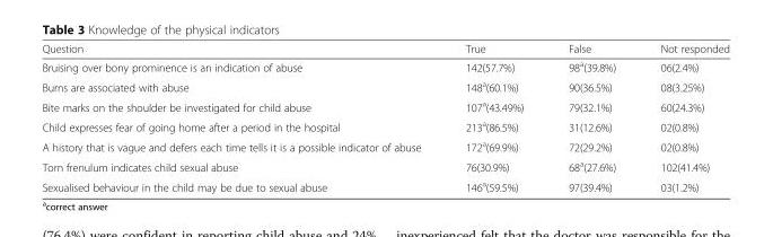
<table><thead><tr><td>Question</td><td>True</td><td>False</td><td>Not responded</td></tr></thead><tbody><tr><td>Bruising over bony prominence is an indication of abuse</td><td>142(57.7%)</td><td>98<sup>a</sup>(39.8%)</td><td>06(2.4%)</td></tr><tr><td>Burns are associated with abuse</td><td>148<sup>a</sup>(60.1%)</td><td>90(36.5%)</td><td>08(3.25%)</td></tr><tr><td>Bite marks on the shoulder be investigated for child abuse</td><td>107<sup>a</sup>(43.49%)</td><td>79(32.1%)</td><td>60(24.3%)</td></tr><tr><td>Child expresses fear of going home after a period in the hospital</td><td>213<sup>a</sup>(86.5%)</td><td>31(12.6%)</td><td>02(0.8%)</td></tr><tr><td>A history that is vague and defers each time tells it is a possible indicator of abuse</td><td>172<sup>a</sup>(69.9%)</td><td>72(29.2%)</td><td>02(0.8%)</td></tr><tr><td>Torn frenulum indicates child sexual abuse</td><td>76(30.9%)</td><td>68<sup>a</sup>(27.6%)</td><td>102(41.4%)</td></tr><tr><td>Sexualised behaviour in the child may be due to sexual abuse</td><td>146<sup>a</sup>(59.5%)</td><td>97(39.4%)</td><td>03(1.2%)</td></tr></tbody></table>